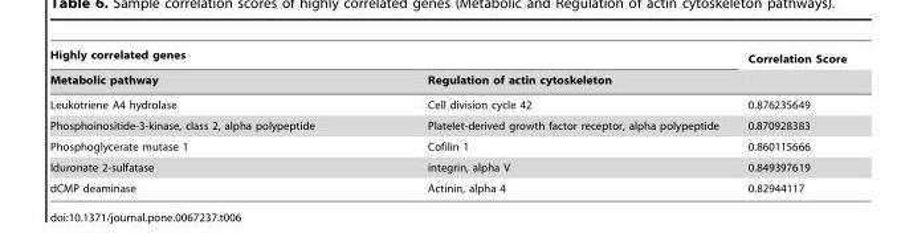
<table><thead><tr><td colspan="2">Highly correlated genes</td><td rowspan="2">Correlation Score</td></tr><tr><td>Metabolic pathway</td><td>Regulation of actin cytoskeleton</td></tr></thead><tbody><tr><td>Leukotriene A4 hydrolase</td><td>Cell division cycle 42</td><td>0.876235649</td></tr><tr><td>Phosphoinositide-3-kinase, class 2, alpha polypeptide</td><td>Platelet-derived growth factor receptor, alpha polypeptide</td><td>0.870928383</td></tr><tr><td>Phosphoglycerate mutase 1</td><td>Cofilin 1</td><td>0.860115666</td></tr><tr><td>Iduronate 2-sulfatase</td><td>integrin, alpha V</td><td>0.849397619</td></tr><tr><td>dCMP deaminase</td><td>Actinin, alpha 4</td><td>0.82944117</td></tr></tbody></table>